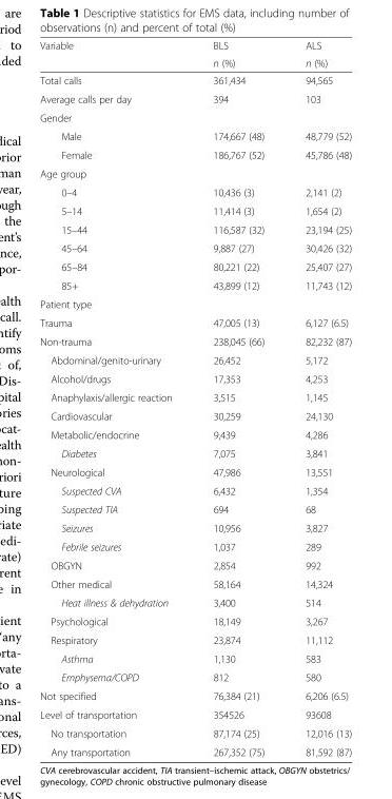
<table><thead><tr><td rowspan="2">Variable</td><td rowspan="2">BLS n (%)</td><td rowspan="2">ALS n (%)</td></tr><tr></tr></thead><tbody><tr><td>Total calls</td><td>361,434</td><td>94,565</td></tr><tr><td>Average calls per day</td><td>394</td><td>103</td></tr><tr><td colspan="3">Gender</td></tr><tr><td>Male</td><td>174,667 (48)</td><td>48,779 (52)</td></tr><tr><td>Female</td><td>186,767 (52)</td><td>45,786 (48)</td></tr><tr><td colspan="3">Age group</td></tr><tr><td>0–4</td><td>10,436 (3)</td><td>2,141 (2)</td></tr><tr><td>5–14</td><td>11,414 (3)</td><td>1,654 (2)</td></tr><tr><td>15–44</td><td>116,587 (32)</td><td>23,194 (25)</td></tr><tr><td>45–64</td><td>9,887 (27)</td><td>30,426 (32)</td></tr><tr><td>65–84</td><td>80,221 (22)</td><td>25,407 (27)</td></tr><tr><td>85+</td><td>43,899 (12)</td><td>11,743 (12)</td></tr><tr><td colspan="3">Patient type</td></tr><tr><td>Trauma</td><td>47,005 (13)</td><td>6,127 (6.5)</td></tr><tr><td>Non-trauma</td><td>238,045 (66)</td><td>82,232 (87)</td></tr><tr><td>Abdominal/genito-urinary</td><td>26,452</td><td>5,172</td></tr><tr><td>Alcohol/drugs</td><td>17,353</td><td>4,253</td></tr><tr><td>Anaphylaxis/allergic reaction</td><td>3,515</td><td>1,145</td></tr><tr><td>Cardiovascular</td><td>30,259</td><td>24,130</td></tr><tr><td>Metabolic/endocrine</td><td>9,439</td><td>4,286</td></tr><tr><td>Diabetes</td><td>7,075</td><td>3,841</td></tr><tr><td>Neurological</td><td>47,986</td><td>13,551</td></tr><tr><td>Suspected CVA</td><td>6,432</td><td>1,354</td></tr><tr><td>Suspected TIA</td><td>694</td><td>68</td></tr><tr><td>Seizures</td><td>10,956</td><td>3,827</td></tr><tr><td>Febrile seizures</td><td>1,037</td><td>289</td></tr><tr><td>OBGYN</td><td>2,854</td><td>992</td></tr><tr><td>Other medical</td><td>58,164</td><td>14,324</td></tr><tr><td>Heat illness &amp; dehydration</td><td>3,400</td><td>514</td></tr><tr><td>Psychological</td><td>18,149</td><td>3,267</td></tr><tr><td>Respiratory</td><td>23,874</td><td>11,112</td></tr><tr><td>Asthma</td><td>1,130</td><td>583</td></tr><tr><td>Emphysema/COPD</td><td>812</td><td>580</td></tr><tr><td>Not specified</td><td>76,384 (21)</td><td>6,206 (6.5)</td></tr><tr><td>Level of transportation</td><td>354526</td><td>93608</td></tr><tr><td>No transportation</td><td>87,174 (25)</td><td>12,016 (13)</td></tr><tr><td>Any transportation</td><td>267,352 (75)</td><td>81,592 (87)</td></tr></tbody></table>